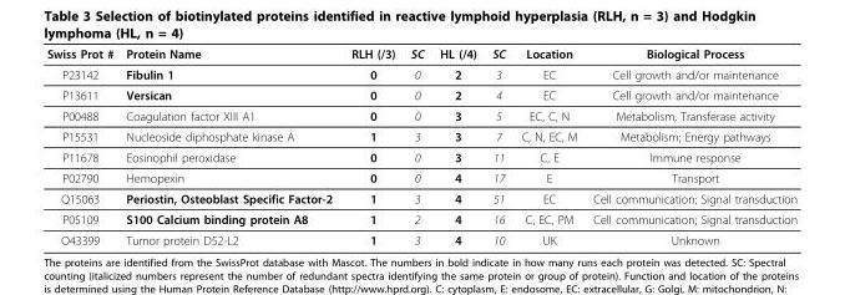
<table><thead><tr><td>Swiss Prot #</td><td>Protein Name</td><td>RLH (/3)</td><td>SC</td><td>HL (/4)</td><td>SC</td><td>Location</td><td>Biological Process</td></tr></thead><tbody><tr><td>P23142</td><td>Fibulin 1</td><td>0</td><td>0</td><td>2</td><td>3</td><td>EC</td><td>Cell growth and/or maintenance</td></tr><tr><td>P13611</td><td>Versican</td><td>0</td><td>0</td><td>2</td><td>4</td><td>EC</td><td>Cell growth and/or maintenance</td></tr><tr><td>P00488</td><td>Coagulation factor XIII A1</td><td>0</td><td>0</td><td>3</td><td>5</td><td>EC, C, N</td><td>Metabolism, Transferase activity</td></tr><tr><td>P15531</td><td>Nucleoside diphosphate kinase A</td><td>1</td><td>3</td><td>3</td><td>7</td><td>C, N, EC, M</td><td>Metabolism; Energy pathways</td></tr><tr><td>P11678</td><td>Eosinophil peroxidase</td><td>0</td><td>0</td><td>3</td><td>11</td><td>C, E</td><td>Immune response</td></tr><tr><td>P02790</td><td>Hemopexin</td><td>0</td><td>0</td><td>4</td><td>17</td><td>E</td><td>Transport</td></tr><tr><td>Q15063</td><td>Periostin, Osteoblast Specific Factor-2</td><td>1</td><td>3</td><td>4</td><td>51</td><td>EC</td><td>Cell communication; Signal transduction</td></tr><tr><td>P05109</td><td>S100 Calcium binding protein A8</td><td>1</td><td>2</td><td>4</td><td>16</td><td>C, EC, PM</td><td>Cell communication; Signal transduction</td></tr><tr><td>O43399</td><td>Tumor protein D52-L2</td><td>1</td><td>3</td><td>4</td><td>10</td><td>UK</td><td>Unknown</td></tr></tbody></table>